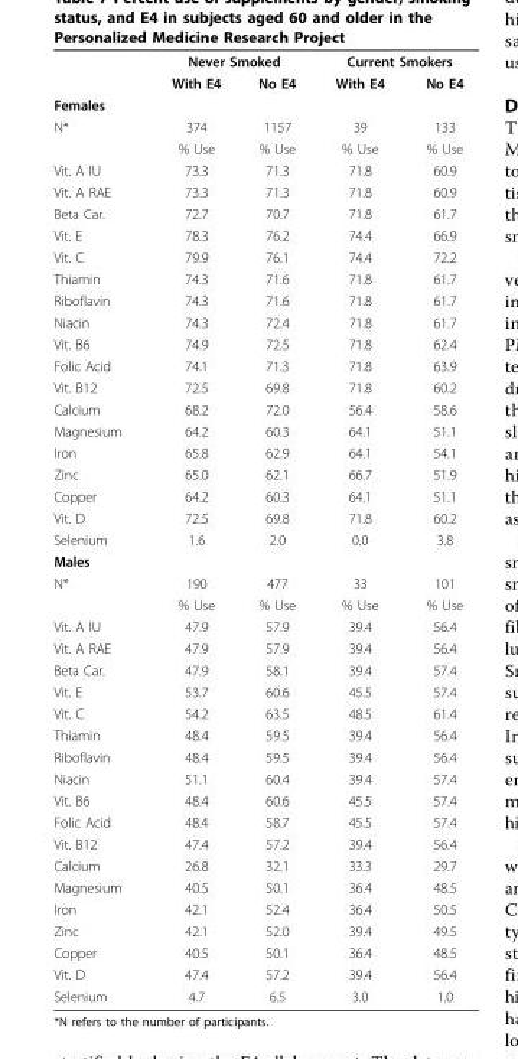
<table><thead><tr><td rowspan="2"></td><td colspan="2">Never Smoked</td><td colspan="2">Current Smokers</td></tr><tr><td>With E4</td><td>No E4</td><td>With E4</td><td>No E4</td></tr></thead><tbody><tr><td colspan="5">Females</td></tr><tr><td rowspan="2">N*</td><td>374</td><td>1157</td><td>39</td><td>133</td></tr><tr><td>% Use</td><td>% Use</td><td>% Use</td><td>% Use</td></tr><tr><td>Vit. A IU</td><td>73.3</td><td>71.3</td><td>71.8</td><td>60.9</td></tr><tr><td>Vit. A RAE</td><td>73.3</td><td>71.3</td><td>71.8</td><td>60.9</td></tr><tr><td>Beta Car.</td><td>72.7</td><td>70.7</td><td>71.8</td><td>61.7</td></tr><tr><td>Vit. E</td><td>78.3</td><td>76.2</td><td>74.4</td><td>66.9</td></tr><tr><td>Vit. C</td><td>79.9</td><td>76.1</td><td>74.4</td><td>72.2</td></tr><tr><td>Thiamin</td><td>74.3</td><td>71.6</td><td>71.8</td><td>61.7</td></tr><tr><td>Riboflavin</td><td>74.3</td><td>71.6</td><td>71.8</td><td>61.7</td></tr><tr><td>Niacin</td><td>74.3</td><td>72.4</td><td>71.8</td><td>61.7</td></tr><tr><td>Vit. B6</td><td>74.9</td><td>72.5</td><td>71.8</td><td>62.4</td></tr><tr><td>Folic Acid</td><td>74.1</td><td>71.3</td><td>71.8</td><td>63.9</td></tr><tr><td>Vit. B12</td><td>72.5</td><td>69.8</td><td>71.8</td><td>60.2</td></tr><tr><td>Calcium</td><td>68.2</td><td>72.0</td><td>56.4</td><td>58.6</td></tr><tr><td>Magnesium</td><td>64.2</td><td>60.3</td><td>64.1</td><td>51.1</td></tr><tr><td>Iron</td><td>65.8</td><td>62.9</td><td>64.1</td><td>54.1</td></tr><tr><td>Zinc</td><td>65.0</td><td>62.1</td><td>66.7</td><td>51.9</td></tr><tr><td>Copper</td><td>64.2</td><td>60.3</td><td>64.1</td><td>51.1</td></tr><tr><td>Vit. D</td><td>72.5</td><td>69.8</td><td>71.8</td><td>60.2</td></tr><tr><td>Selenium</td><td>1.6</td><td>2.0</td><td>0.0</td><td>3.8</td></tr><tr><td colspan="5">Males</td></tr><tr><td rowspan="2">N*</td><td>190</td><td>477</td><td>33</td><td>101</td></tr><tr><td>% Use</td><td>% Use</td><td>% Use</td><td>% Use</td></tr><tr><td>Vit. A IU</td><td>47.9</td><td>57.9</td><td>39.4</td><td>56.4</td></tr><tr><td>Vit. A RAE</td><td>47.9</td><td>57.9</td><td>39.4</td><td>56.4</td></tr><tr><td>Beta Car.</td><td>47.9</td><td>58.1</td><td>39.4</td><td>57.4</td></tr><tr><td>Vit. E</td><td>53.7</td><td>60.6</td><td>45.5</td><td>57.4</td></tr><tr><td>Vit. C</td><td>54.2</td><td>63.5</td><td>48.5</td><td>61.4</td></tr><tr><td>Thiamin</td><td>48.4</td><td>59.5</td><td>39.4</td><td>56.4</td></tr><tr><td>Riboflavin</td><td>48.4</td><td>59.5</td><td>39.4</td><td>56.4</td></tr><tr><td>Niacin</td><td>51.1</td><td>60.4</td><td>39.4</td><td>57.4</td></tr><tr><td>Vit. B6</td><td>48.4</td><td>60.6</td><td>45.5</td><td>57.4</td></tr><tr><td>Folic Acid</td><td>48.4</td><td>58.7</td><td>45.5</td><td>57.4</td></tr><tr><td>Vit. B12</td><td>47.4</td><td>57.2</td><td>39.4</td><td>56.4</td></tr><tr><td>Calcium</td><td>26.8</td><td>32.1</td><td>33.3</td><td>29.7</td></tr><tr><td>Magnesium</td><td>40.5</td><td>50.1</td><td>36.4</td><td>48.5</td></tr><tr><td>Iron</td><td>42.1</td><td>52.4</td><td>36.4</td><td>50.5</td></tr><tr><td>Zinc</td><td>42.1</td><td>52.0</td><td>39.4</td><td>49.5</td></tr><tr><td>Copper</td><td>40.5</td><td>50.1</td><td>36.4</td><td>48.5</td></tr><tr><td>Vit. D</td><td>47.4</td><td>57.2</td><td>39.4</td><td>56.4</td></tr><tr><td>Selenium</td><td>4.7</td><td>6.5</td><td>3.0</td><td>1.0</td></tr></tbody></table>